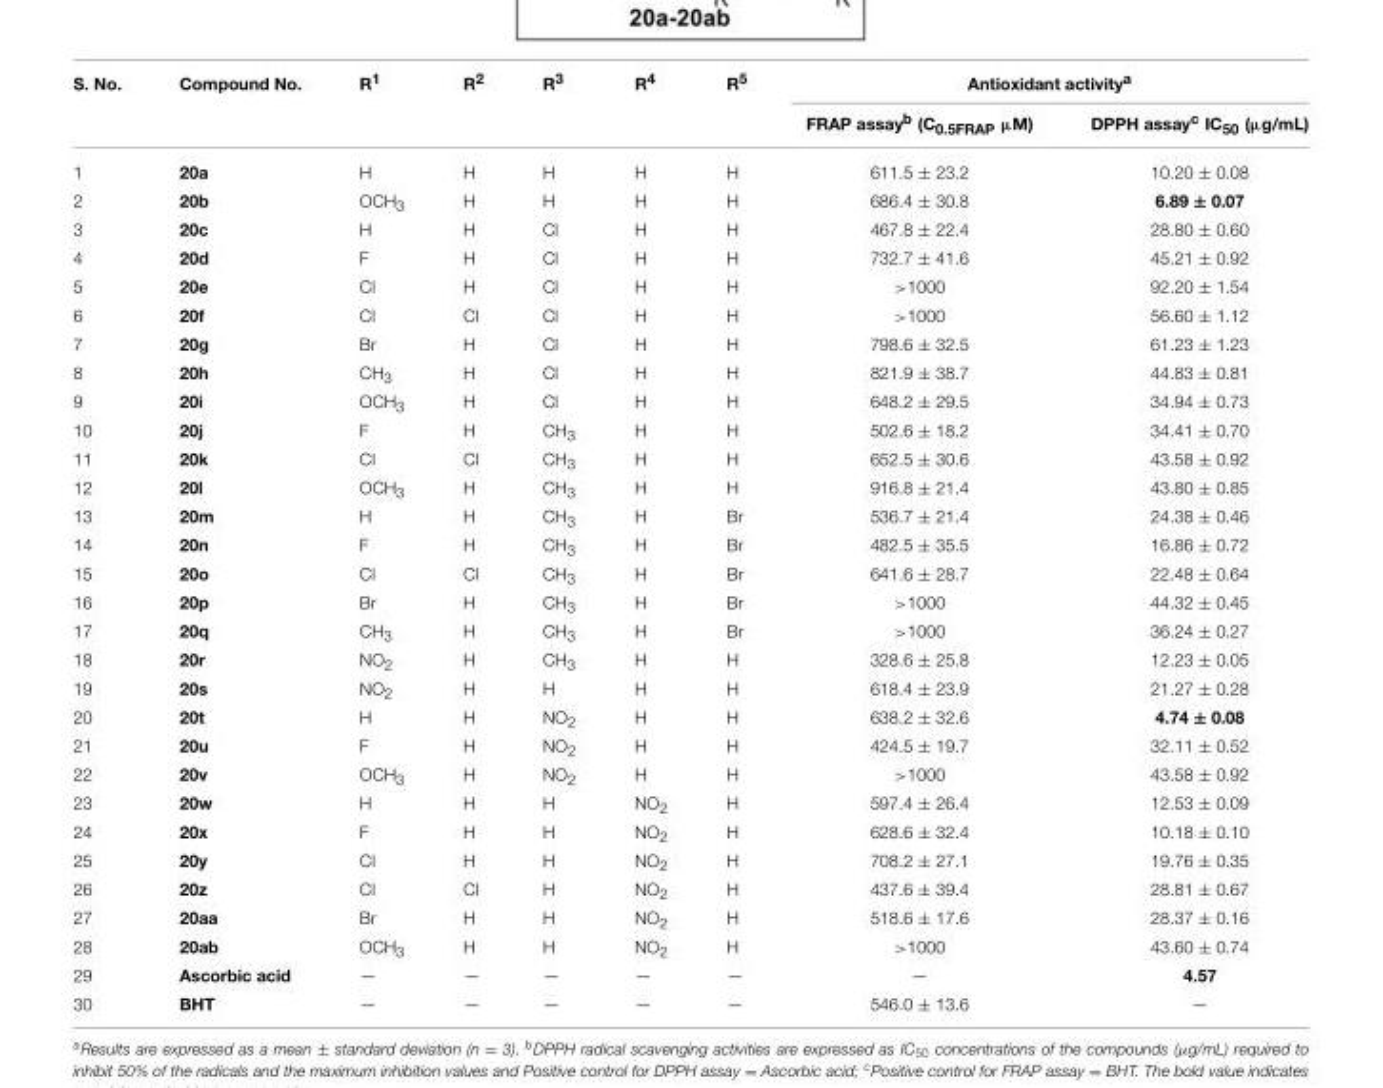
<table><tbody><tr><td rowspan="2">S. No.</td><td>Compound No.</td><td>R<sup>1</sup></td><td>R<sup>2</sup></td><td>R<sup>3</sup></td><td>R<sup>4</sup></td><td>R<sup>5</sup></td><td colspan="2">Antioxidant activity<sup>a</sup></td></tr><tr><td></td><td></td><td></td><td></td><td></td><td></td><td>FRAP assay<sup>b</sup> (C<sub>0.5FRAP</sub> µM)</td><td>DPPH assayc IC50 (µg/mL)</td></tr><tr><td>1</td><td>20a</td><td>H</td><td>H</td><td>H</td><td>H</td><td>H</td><td>611.5 ± 23.2</td><td>10.20 ± 0.08</td></tr><tr><td>2</td><td>20b</td><td>OCH<sub>3</sub></td><td>H</td><td>H</td><td>H</td><td>H</td><td>686.4 ± 30.8</td><td>6.89 ± 0.07</td></tr><tr><td>3</td><td>20c</td><td>H</td><td>H</td><td>Cl</td><td>H</td><td>H</td><td>467.8 ± 22.4</td><td>28.80 ± 0.60</td></tr><tr><td>4</td><td>20d</td><td>F</td><td>H</td><td>Cl</td><td>H</td><td>H</td><td>732.7 ± 41.6</td><td>45.21 ± 0.92</td></tr><tr><td>5</td><td>20e</td><td>Cl</td><td>H</td><td>Cl</td><td>H</td><td>H</td><td>&gt;1000</td><td>92.20 ± 1.54</td></tr><tr><td>6</td><td>20f</td><td>Cl</td><td>Cl</td><td>Cl</td><td>H</td><td>H</td><td>&gt;1000</td><td>56.60 ± 1.12</td></tr><tr><td>7</td><td>20g</td><td>Br</td><td>H</td><td>Cl</td><td>H</td><td>H</td><td>798.6 ± 32.5</td><td>61.23 ± 1.23</td></tr><tr><td>8</td><td>20h</td><td>CH<sub>3</sub></td><td>H</td><td>Cl</td><td>H</td><td>H</td><td>821.9 ± 38.7</td><td>44.83 ± 0.81</td></tr><tr><td>9</td><td>20i</td><td>OCH<sub>3</sub></td><td>H</td><td>Cl</td><td>H</td><td>H</td><td>648.2 ± 29.5</td><td>34.94 ± 0.73</td></tr><tr><td>10</td><td>20j</td><td>F</td><td>H</td><td>CH<sub>3</sub></td><td>H</td><td>H</td><td>502.6 ± 18.2</td><td>34.41 ± 0.70</td></tr><tr><td>11</td><td>20k</td><td>Cl</td><td>Cl</td><td>CH<sub>3</sub></td><td>H</td><td>H</td><td>652.5 ± 30.6</td><td>43.58 ± 0.92</td></tr><tr><td>12</td><td>20l</td><td>OCH<sub>3</sub></td><td>H</td><td>CH<sub>3</sub></td><td>H</td><td>H</td><td>916.8 ± 21.4</td><td>43.80 ± 0.85</td></tr><tr><td>13</td><td>20m</td><td>H</td><td>H</td><td>CH<sub>3</sub></td><td>H</td><td>Br</td><td>536.7 ± 21.4</td><td>24.38 ± 0.46</td></tr><tr><td>14</td><td>20n</td><td>F</td><td>H</td><td>CH<sub>3</sub></td><td>H</td><td>Br</td><td>482.5 ± 35.5</td><td>16.86 ± 0.72</td></tr><tr><td>15</td><td>20o</td><td>Cl</td><td>Cl</td><td>CH<sub>3</sub></td><td>H</td><td>Br</td><td>641.6 ± 28.7</td><td>22.48 ± 0.64</td></tr><tr><td>16</td><td>20p</td><td>Br</td><td>H</td><td>CH<sub>3</sub></td><td>H</td><td>Br</td><td>&gt;1000</td><td>44.32 ± 0.45</td></tr><tr><td>17</td><td>20q</td><td>CH<sub>3</sub></td><td>H</td><td>CH<sub>3</sub></td><td>H</td><td>Br</td><td>&gt;1000</td><td>36.24 ± 0.27</td></tr><tr><td>18</td><td>20r</td><td>NO<sub>2</sub></td><td>H</td><td>CH<sub>3</sub></td><td>H</td><td>H</td><td>328.6 ± 25.8</td><td>12.23 ± 0.05</td></tr><tr><td>19</td><td>20s</td><td>NO<sub>2</sub></td><td>H</td><td>H</td><td>H</td><td>H</td><td>618.4 ± 23.9</td><td>21.27 ± 0.28</td></tr><tr><td>20</td><td>20t</td><td>H</td><td>H</td><td>NO<sub>2</sub></td><td>H</td><td>H</td><td>638.2 ± 32.6</td><td>4.74 ± 0.08</td></tr><tr><td>21</td><td>20u</td><td>F</td><td>H</td><td>NO<sub>2</sub></td><td>H</td><td>H</td><td>424.5 ± 19.7</td><td>32.11 ± 0.52</td></tr><tr><td>22</td><td>20v</td><td>OCH<sub>3</sub></td><td>H</td><td>NO<sub>2</sub></td><td>H</td><td>H</td><td>&gt;1000</td><td>43.58 ± 0.92</td></tr><tr><td>23</td><td>20w</td><td>H</td><td>H</td><td>H</td><td>NO<sub>2</sub></td><td>H</td><td>597.4 ± 26.4</td><td>12.53 ± 0.09</td></tr><tr><td>24</td><td>20x</td><td>F</td><td>H</td><td>H</td><td>NO<sub>2</sub></td><td>H</td><td>628.6 ± 32.4</td><td>10.18 ± 0.10</td></tr><tr><td>25</td><td>20y</td><td>Cl</td><td>H</td><td>H</td><td>NO<sub>2</sub></td><td>H</td><td>708.2 ± 27.1</td><td>19.76 ± 0.35</td></tr><tr><td>26</td><td>20z</td><td>Cl</td><td>Cl</td><td>H</td><td>NO<sub>2</sub></td><td>H</td><td>437.6 ± 39.4</td><td>28.81 ± 0.67</td></tr><tr><td>27</td><td>20aa</td><td>Br</td><td>H</td><td>H</td><td>NO<sub>2</sub></td><td>H</td><td>518.6 ± 17.6</td><td>28.37 ± 0.16</td></tr><tr><td>28</td><td>20ab</td><td>OCH<sub>3</sub></td><td>H</td><td>H</td><td>NO<sub>2</sub></td><td>H</td><td>&gt;1000</td><td>43.60 ± 0.74</td></tr><tr><td>29</td><td>Ascorbic acid</td><td>—</td><td>—</td><td>—</td><td>—</td><td>—</td><td>—</td><td>4.57</td></tr><tr><td>30</td><td>BHT</td><td>—</td><td>—</td><td>—</td><td>—</td><td>—</td><td>546.0 ± 13.6</td><td>—</td></tr></tbody></table>